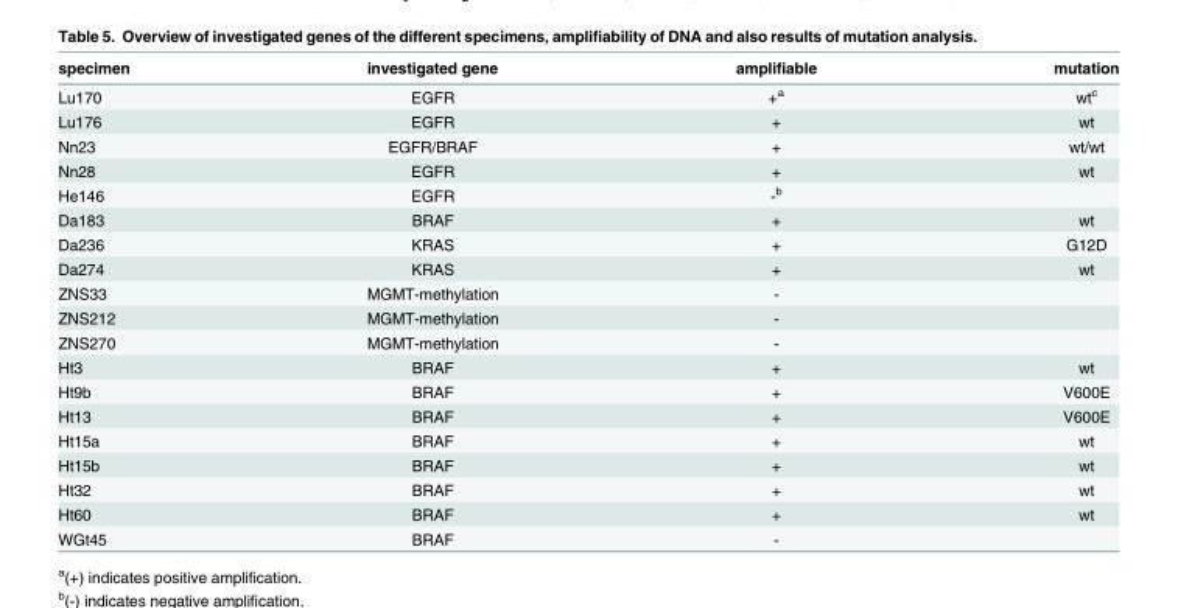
<table><thead><tr><td>specimen</td><td>investigated gene</td><td>amplifiable</td><td>mutation</td></tr></thead><tbody><tr><td>Lu170</td><td>EGFR</td><td>+<sup>a</sup></td><td>wt<sup>c</sup></td></tr><tr><td>Lu176</td><td>EGFR</td><td>+</td><td>wt</td></tr><tr><td>Nn23</td><td>EGFR/BRAF</td><td>+</td><td>wt/wt</td></tr><tr><td>Nn28</td><td>EGFR</td><td>+</td><td>wt</td></tr><tr><td>He146</td><td>EGFR</td><td>-<sup>b</sup></td><td></td></tr><tr><td>Da183</td><td>BRAF</td><td>+</td><td>wt</td></tr><tr><td>Da236</td><td>KRAS</td><td>+</td><td>G12D</td></tr><tr><td>Da274</td><td>KRAS</td><td>+</td><td>wt</td></tr><tr><td>ZNS33</td><td>MGMT-methylation</td><td>-</td><td></td></tr><tr><td>ZNS212</td><td>MGMT-methylation</td><td>-</td><td></td></tr><tr><td>ZNS270</td><td>MGMT-methylation</td><td>-</td><td></td></tr><tr><td>Ht3</td><td>BRAF</td><td>+</td><td>wt</td></tr><tr><td>Ht9b</td><td>BRAF</td><td>+</td><td>V600E</td></tr><tr><td>Ht13</td><td>BRAF</td><td>+</td><td>V600E</td></tr><tr><td>Ht15a</td><td>BRAF</td><td>+</td><td>wt</td></tr><tr><td>Ht15b</td><td>BRAF</td><td>+</td><td>wt</td></tr><tr><td>Ht32</td><td>BRAF</td><td>+</td><td>wt</td></tr><tr><td>Ht60</td><td>BRAF</td><td>+</td><td>wt</td></tr><tr><td>WGt45</td><td>BRAF</td><td>-</td><td></td></tr></tbody></table>